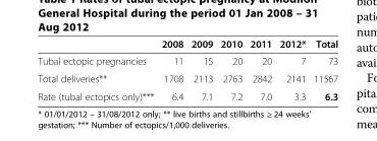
<table><thead><tr><td></td><td>2008</td><td>2009</td><td>2010</td><td>2011</td><td>2012*</td><td>Total</td></tr></thead><tbody><tr><td>Tubal ectopic pregnancies</td><td>11</td><td>15</td><td>20</td><td>20</td><td>7</td><td>73</td></tr><tr><td>Total deliveries**</td><td>1708</td><td>2113</td><td>2763</td><td>2842</td><td>2141</td><td>11567</td></tr><tr><td>Rate (tubal ectopics only)***</td><td>6.4</td><td>7.1</td><td>7.2</td><td>7.0</td><td>3.3</td><td>6.3</td></tr></tbody></table>